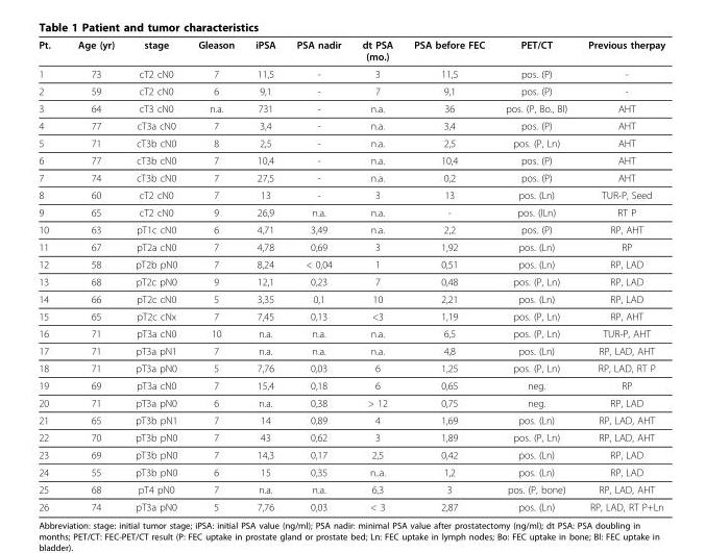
<table><thead><tr><td>Pt.</td><td>Age (yr)</td><td>stage</td><td>Gleason</td><td>iPSA</td><td>PSA nadir</td><td>dt PSA (mo.)</td><td>PSA before FEC</td><td>PET/CT</td><td>Previous therpay</td></tr></thead><tbody><tr><td>1</td><td>73</td><td>cT2 cN0</td><td>7</td><td>11,5</td><td>-</td><td>3</td><td>11,5</td><td>pos. (P)</td><td>-</td></tr><tr><td>2</td><td>59</td><td>cT2 cN0</td><td>6</td><td>9,1</td><td>-</td><td>7</td><td>9,1</td><td>pos. (P)</td><td>-</td></tr><tr><td>3</td><td>64</td><td>cT3 cN0</td><td>n.a.</td><td>731</td><td>-</td><td>n.a.</td><td>36</td><td>pos. (P, Bo., Bl)</td><td>AHT</td></tr><tr><td>4</td><td>77</td><td>cT3a cN0</td><td>7</td><td>3,4</td><td>-</td><td>n.a.</td><td>3,4</td><td>pos. (P)</td><td>AHT</td></tr><tr><td>5</td><td>71</td><td>cT3b cN0</td><td>8</td><td>2,5</td><td>-</td><td>n.a.</td><td>2,5</td><td>pos. (P, Ln)</td><td>AHT</td></tr><tr><td>6</td><td>77</td><td>cT3b cN0</td><td>7</td><td>10,4</td><td>-</td><td>n.a.</td><td>10,4</td><td>pos. (P)</td><td>AHT</td></tr><tr><td>7</td><td>74</td><td>cT3b cN0</td><td>7</td><td>27,5</td><td>-</td><td>n.a.</td><td>0,2</td><td>pos. (P)</td><td>AHT</td></tr><tr><td>8</td><td>60</td><td>cT2 cN0</td><td>7</td><td>13</td><td>-</td><td>3</td><td>13</td><td>pos. (Ln)</td><td>TUR-P, Seed</td></tr><tr><td>9</td><td>65</td><td>cT2 cN0</td><td>9</td><td>26,9</td><td>n.a.</td><td>n.a.</td><td>-</td><td>pos. (lLn)</td><td>RT P</td></tr><tr><td>10</td><td>63</td><td>pT1c cN0</td><td>6</td><td>4,71</td><td>3,49</td><td>n.a.</td><td>2,2</td><td>pos. (P)</td><td>RP, AHT</td></tr><tr><td>11</td><td>67</td><td>pT2a cN0</td><td>7</td><td>4,78</td><td>0,69</td><td>3</td><td>1,92</td><td>pos. (Ln)</td><td>RP</td></tr><tr><td>12</td><td>58</td><td>pT2b pN0</td><td>7</td><td>8,24</td><td>&lt; 0,04</td><td>1</td><td>0,51</td><td>pos. (Ln)</td><td>RP, LAD</td></tr><tr><td>13</td><td>68</td><td>pT2c pN0</td><td>9</td><td>12,1</td><td>0,23</td><td>7</td><td>0,48</td><td>pos. (P, Ln)</td><td>RP, LAD</td></tr><tr><td>14</td><td>66</td><td>pT2c cN0</td><td>5</td><td>3,35</td><td>0,1</td><td>10</td><td>2,21</td><td>pos. (Ln)</td><td>RP, LAD</td></tr><tr><td>15</td><td>65</td><td>pT2c cNx</td><td>7</td><td>7,45</td><td>0,13</td><td>&lt;3</td><td>1,19</td><td>pos. (P, Ln)</td><td>RP, AHT</td></tr><tr><td>16</td><td>71</td><td>pT3a cN0</td><td>10</td><td>n.a.</td><td>n.a.</td><td>n.a.</td><td>6,5</td><td>pos. (P, Ln)</td><td>TUR-P, AHT</td></tr><tr><td>17</td><td>71</td><td>pT3a pN1</td><td>7</td><td>n.a.</td><td>n.a.</td><td>n.a.</td><td>4,8</td><td>pos. (Ln)</td><td>RP, LAD, AHT</td></tr><tr><td>18</td><td>71</td><td>pT3a pN0</td><td>5</td><td>7,76</td><td>0,03</td><td>6</td><td>1,25</td><td>pos. (P, Ln)</td><td>RP, LAD, RT P</td></tr><tr><td>19</td><td>69</td><td>pT3a cN0</td><td>7</td><td>15,4</td><td>0,18</td><td>6</td><td>0,65</td><td>neg.</td><td>RP</td></tr><tr><td>20</td><td>71</td><td>pT3a pN0</td><td>6</td><td>n.a.</td><td>0,38</td><td>&gt; 12</td><td>0,75</td><td>neg.</td><td>RP, LAD</td></tr><tr><td>21</td><td>65</td><td>pT3b pN1</td><td>7</td><td>14</td><td>0,89</td><td>4</td><td>1,69</td><td>pos. (Ln)</td><td>RP, LAD, AHT</td></tr><tr><td>22</td><td>70</td><td>pT3b pN0</td><td>7</td><td>43</td><td>0,62</td><td>3</td><td>1,89</td><td>pos. (P, Ln)</td><td>RP, LAD, AHT</td></tr><tr><td>23</td><td>69</td><td>pT3b pN0</td><td>7</td><td>14,3</td><td>0,17</td><td>2,5</td><td>0,42</td><td>pos. (Ln)</td><td>RP, LAD</td></tr><tr><td>24</td><td>55</td><td>pT3b pN0</td><td>6</td><td>15</td><td>0,35</td><td>n..a.</td><td>1,2</td><td>pos. (Ln)</td><td>RP, LAD</td></tr><tr><td>25</td><td>68</td><td>pT4 pN0</td><td>7</td><td>n.a.</td><td>n.a.</td><td>6,3</td><td>3</td><td>pos. (P, bone)</td><td>RP, LAD, AHT</td></tr><tr><td>26</td><td>74</td><td>pT3a pN0</td><td>5</td><td>7,76</td><td>0,03</td><td>&lt; 3</td><td>2,87</td><td>pos. (Ln)</td><td>RP, LAD, RT P+Ln</td></tr></tbody></table>